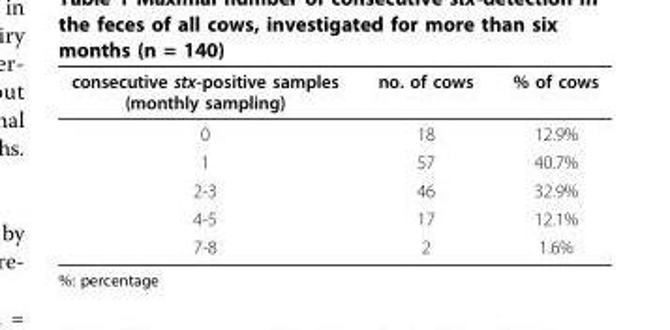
<table><thead><tr><td>consecutive stx-positive samples (monthly sampling)</td><td>no. of cows</td><td>% of cows</td></tr></thead><tbody><tr><td>0</td><td>18</td><td>12.9%</td></tr><tr><td>1</td><td>57</td><td>40.7%</td></tr><tr><td>2-3</td><td>46</td><td>32.9%</td></tr><tr><td>4-5</td><td>17</td><td>12.1%</td></tr><tr><td>7-8</td><td>2</td><td>1.6%</td></tr></tbody></table>